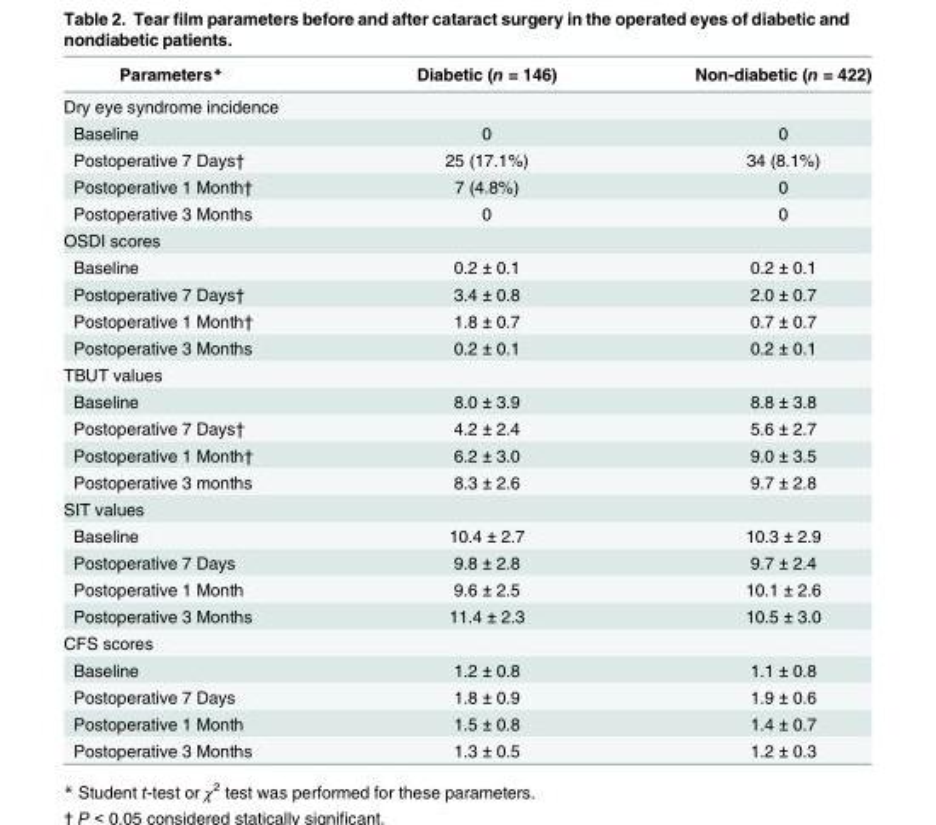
<table><thead><tr><td>Parameters*</td><td>Diabetic (n = 146)</td><td>Non-diabetic (n = 422)</td></tr></thead><tbody><tr><td colspan="3">Dry eye syndrome incidence</td></tr><tr><td>Baseline</td><td>0</td><td>0</td></tr><tr><td>Postoperative 7 Days†</td><td>25 (17.1%)</td><td>34 (8.1%)</td></tr><tr><td>Postoperative 1 Month†</td><td>7 (4.8%)</td><td>0</td></tr><tr><td>Postoperative 3 Months</td><td>0</td><td>0</td></tr><tr><td colspan="3">OSDI scores</td></tr><tr><td>Baseline</td><td>0.2 ± 0.1</td><td>0.2 ± 0.1</td></tr><tr><td>Postoperative 7 Days†</td><td>3.4 ± 0.8</td><td>2.0 ± 0.7</td></tr><tr><td>Postoperative 1 Month†</td><td>1.8 ± 0.7</td><td>0.7 ± 0.7</td></tr><tr><td>Postoperative 3 Months</td><td>0.2 ± 0.1</td><td>0.2 ± 0.1</td></tr><tr><td colspan="3">TBUT values</td></tr><tr><td>Baseline</td><td>8.0 ± 3.9</td><td>8.8 ± 3.8</td></tr><tr><td>Postoperative 7 Days†</td><td>4.2 ± 2.4</td><td>5.6 ± 2.7</td></tr><tr><td>Postoperative 1 Month†</td><td>6.2 ± 3.0</td><td>9.0 ± 3.5</td></tr><tr><td>Postoperative 3 months</td><td>8.3 ± 2.6</td><td>9.7 ± 2.8</td></tr><tr><td colspan="3">SIT values</td></tr><tr><td>Baseline</td><td>10.4 ± 2.7</td><td>10.3 ± 2.9</td></tr><tr><td>Postoperative 7 Days</td><td>9.8 ± 2.8</td><td>9.7 ± 2.4</td></tr><tr><td>Postoperative 1 Month</td><td>9.6 ± 2.5</td><td>10.1 ± 2.6</td></tr><tr><td>Postoperative 3 Months</td><td>11.4 ± 2.3</td><td>10.5 ± 3.0</td></tr><tr><td colspan="3">CFS scores</td></tr><tr><td>Baseline</td><td>1.2 ± 0.8</td><td>1.1 ± 0.8</td></tr><tr><td>Postoperative 7 Days</td><td>1.8 ± 0.9</td><td>1.9 ± 0.6</td></tr><tr><td>Postoperative 1 Month</td><td>1.5 ± 0.8</td><td>1.4 ± 0.7</td></tr><tr><td>Postoperative 3 Months</td><td>1.3 ± 0.5</td><td>1.2 ± 0.3</td></tr></tbody></table>